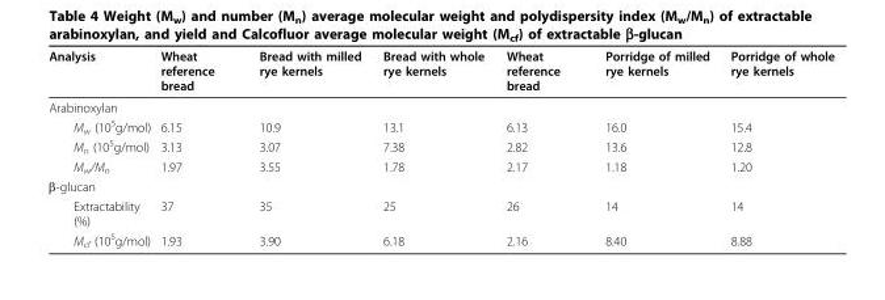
<table><tbody><tr><td>Analysis</td><td>Wheat reference bread</td><td>Bread with milled rye kernels</td><td>Bread with whole rye kernels</td><td>Wheat reference bread</td><td>Porridge of milled rye kernels</td><td>Porridge of whole rye kernels</td></tr><tr><td colspan="7">Arabinoxylan</td></tr><tr><td>M<sub>w</sub> (10<sup>5</sup>g/mol)</td><td>6.15</td><td>10.9</td><td>13.1</td><td>6.13</td><td>16.0</td><td>15.4</td></tr><tr><td>M<sub>n</sub> (10<sup>5</sup>g/mol)</td><td>3.13</td><td>3.07</td><td>7.38</td><td>2.82</td><td>13.6</td><td>12.8</td></tr><tr><td>M<sub>w</sub>/M<sub>n</sub></td><td>1.97</td><td>3.55</td><td>1.78</td><td>2.17</td><td>1.18</td><td>1.20</td></tr><tr><td colspan="7">β-glucan</td></tr><tr><td>Extractability (%)</td><td>37</td><td>35</td><td>25</td><td>26</td><td>14</td><td>14</td></tr><tr><td>M<sub>cf</sub> (10<sup>5</sup>g/mol)</td><td>1.93</td><td>3.90</td><td>6.18</td><td>2.16</td><td>8.40</td><td>8.88</td></tr></tbody></table>